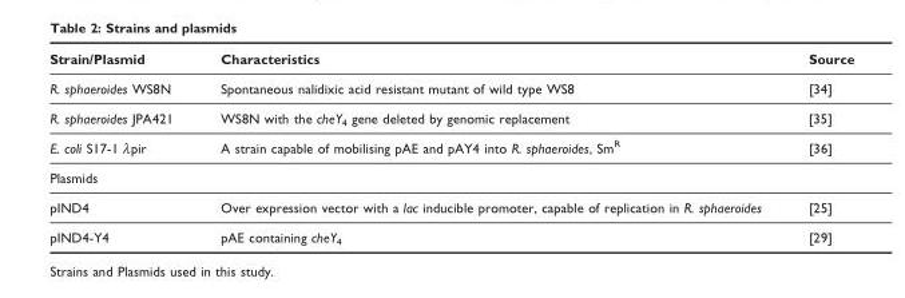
<table><thead><tr><td>Strain/Plasmid</td><td>Characteristics</td><td>Source</td></tr></thead><tbody><tr><td>R. sphaeroides WS8N</td><td>Spontaneous nalidixic acid resistant mutant of wild type WS8</td><td>[34]</td></tr><tr><td>R. sphaeroides JPA421</td><td>WS8N with the cheY<sub>4</sub> gene deleted by genomic replacement</td><td>[35]</td></tr><tr><td>E. coli S17-1 λpir</td><td>A strain capable of mobilising pAE and pAY4 into R. sphaeroides, Sm<sup>R</sup></td><td>[36]</td></tr><tr><td colspan="3">Plasmids</td></tr><tr><td>pIND4</td><td>Over expression vector with a lac inducible promoter, capable of replication in R. sphaeroides</td><td>[25]</td></tr><tr><td>pIND4-Y4</td><td>pAE containing cheY<sub>4</sub></td><td>[29]</td></tr></tbody></table>